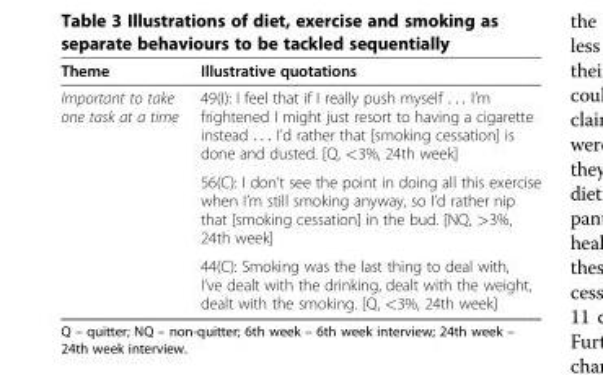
<table><thead><tr><td>Theme</td><td>Illustrative quotations</td></tr></thead><tbody><tr><td rowspan="3">Important to take one task at a time</td><td>49(I): I feel that if I really push myself . . . I’m frightened I might just resort to having a cigarette instead . . . I’d rather that [smoking cessation] is done and dusted. [Q, &lt;3%, 24th week]</td></tr><tr><td>56(C): I don’t see the point in doing all this exercise when I’m still smoking anyway, so I’d rather nip that [smoking cessation] in the bud. [NQ, &gt;3%, 24th week]</td></tr><tr><td>44(C): Smoking was the last thing to deal with, I’ve dealt with the drinking, dealt with the weight, dealt with the smoking. [Q, &lt;3%, 24th week]</td></tr></tbody></table>